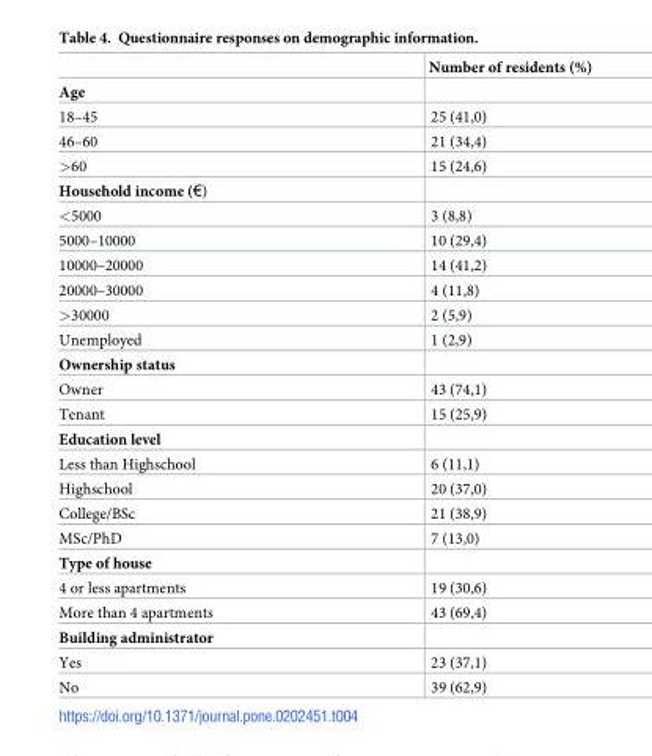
<table><thead><tr><td></td><td>Number of residents (%)</td></tr></thead><tbody><tr><td colspan="2">Age</td></tr><tr><td>18–45</td><td>25 (41,0)</td></tr><tr><td>46–60</td><td>21 (34,4)</td></tr><tr><td>&gt;60</td><td>15 (24,6)</td></tr><tr><td colspan="2">Household income (€)</td></tr><tr><td>&lt;5000</td><td>3 (8,8)</td></tr><tr><td>5000–10000</td><td>10 (29,4)</td></tr><tr><td>10000–20000</td><td>14 (41,2)</td></tr><tr><td>20000–30000</td><td>4 (11,8)</td></tr><tr><td>&gt;30000</td><td>2 (5,9)</td></tr><tr><td>Unemployed</td><td>1 (2,9)</td></tr><tr><td colspan="2">Ownership status</td></tr><tr><td>Owner</td><td>43 (74,1)</td></tr><tr><td>Tenant</td><td>15 (25,9)</td></tr><tr><td colspan="2">Education level</td></tr><tr><td>Less than Highschool</td><td>6 (11,1)</td></tr><tr><td>Highschool</td><td>20 (37,0)</td></tr><tr><td>College/BSc</td><td>21 (38,9)</td></tr><tr><td>MSc/PhD</td><td>7 (13,0)</td></tr><tr><td colspan="2">Type of house</td></tr><tr><td>4 or less apartments</td><td>19 (30,6)</td></tr><tr><td>More than 4 apartments</td><td>43 (69,4)</td></tr><tr><td colspan="2">Building administrator</td></tr><tr><td>Yes</td><td>23 (37,1)</td></tr><tr><td>No</td><td>39 (62,9)</td></tr></tbody></table>